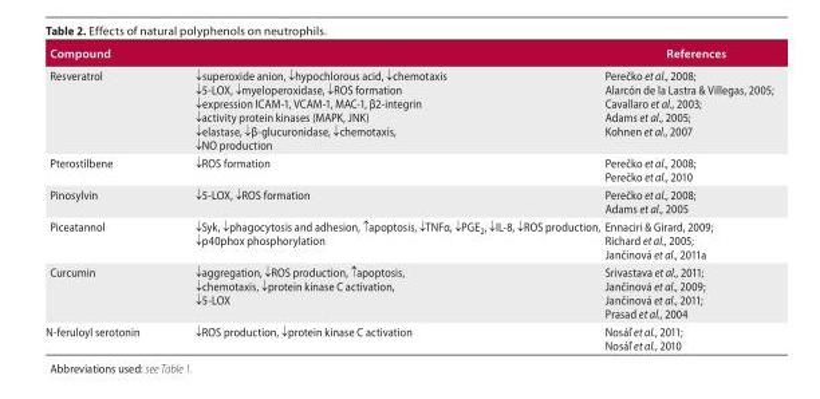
<table><thead><tr><td>Compound</td><td></td><td>References</td></tr></thead><tbody><tr><td>Resveratrol</td><td>↓superoxide anion, ↓hypochlorous acid, ↓chemotaxis ↓5-LOX, ↓myeloperoxidase, ↓ROS formation ↓expression ICAM-1, VCAM-1, MAC-1, β2-integrin ↓activity protein kinases (MAPK, JNK) ↓elastase, ↓β-glucuronidase, ↓chemotaxis, ↓NO production</td><td>Perečko et al., 2008; Alarcón de la Lastra &amp; Villegas, 2005; Cavallaro et al., 2003; Adams et al., 2005; Kohnen et al., 2007</td></tr><tr><td>Pterostilbene</td><td>↓ROS formation</td><td>Perečko et al., 2008; Perečko et al., 2010</td></tr><tr><td>Pinosylvin</td><td>↓5-LOX, ↓ROS formation</td><td>Perečko et al., 2008; Adams et al., 2005</td></tr><tr><td>Piceatannol</td><td>↓Syk, ↓phagocytosis and adhesion, ↑apoptosis, ↓TNFα, ↓PGE<sub>2</sub>, ↓IL-8, ↓ROS production, ↓p40phox phosphorylation</td><td>Ennaciri &amp; Girard, 2009; Richard et al., 2005; Jančinová et al., 2011a</td></tr><tr><td>Curcumin</td><td>↓aggregation, ↓ROS production, ↑apoptosis, ↓chemotaxis, ↓protein kinase C activation, ↓5-LOX</td><td>Srivastava et al., 2011; Jančinová et al., 2009; Jančinová et al., 2011; Prasad et al., 2004</td></tr><tr><td>N-feruloyl serotonin</td><td>↓ROS production, ↓protein kinase C activation</td><td>Nosáľ et al., 2011; Nosáľ et al., 2010</td></tr></tbody></table>